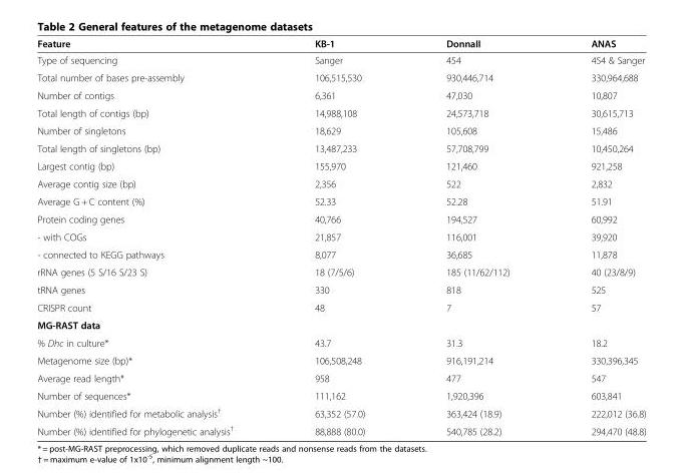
<table><thead><tr><td>Feature</td><td>KB-1</td><td>DonnaII</td><td>ANAS</td></tr></thead><tbody><tr><td>Type of sequencing</td><td>Sanger</td><td>454</td><td>454 &amp; Sanger</td></tr><tr><td>Total number of bases pre-assembly</td><td>106,515,530</td><td>930,446,714</td><td>330,964,688</td></tr><tr><td>Number of contigs</td><td>6,361</td><td>47,030</td><td>10,807</td></tr><tr><td>Total length of contigs (bp)</td><td>14,988,108</td><td>24,573,718</td><td>30,615,713</td></tr><tr><td>Number of singletons</td><td>18,629</td><td>105,608</td><td>15,486</td></tr><tr><td>Total length of singletons (bp)</td><td>13,487,233</td><td>57,708,799</td><td>10,450,264</td></tr><tr><td>Largest contig (bp)</td><td>155,970</td><td>121,460</td><td>921,258</td></tr><tr><td>Average contig size (bp)</td><td>2,356</td><td>522</td><td>2,832</td></tr><tr><td>Average G + C content (%)</td><td>52.33</td><td>52.28</td><td>51.91</td></tr><tr><td>Protein coding genes</td><td>40,766</td><td>194,527</td><td>60,992</td></tr><tr><td>- with COGs</td><td>21,857</td><td>116,001</td><td>39,920</td></tr><tr><td>- connected to KEGG pathways</td><td>8,077</td><td>36,685</td><td>11,878</td></tr><tr><td>rRNA genes (5 S/16 S/23 S)</td><td>18 (7/5/6)</td><td>185 (11/62/112)</td><td>40 (23/8/9)</td></tr><tr><td>tRNA genes</td><td>330</td><td>818</td><td>525</td></tr><tr><td>CRISPR count</td><td>48</td><td>7</td><td>57</td></tr><tr><td colspan="4">MG-RAST data</td></tr><tr><td>% Dhc in culture*</td><td>43.7</td><td>31.3</td><td>18.2</td></tr><tr><td>Metagenome size (bp)*</td><td>106,508,248</td><td>916,191,214</td><td>330,396,345</td></tr><tr><td>Average read length*</td><td>958</td><td>477</td><td>547</td></tr><tr><td>Number of sequences*</td><td>111,162</td><td>1,920,396</td><td>603,841</td></tr><tr><td>Number (%) identified for metabolic analysis<sup>†</sup></td><td>63,352 (57.0)</td><td>363,424 (18.9)</td><td>222,012 (36.8)</td></tr><tr><td>Number (%) identified for phylogenetic analysis<sup>†</sup></td><td>88,888 (80.0)</td><td>540,785 (28.2)</td><td>294,470 (48.8)</td></tr></tbody></table>